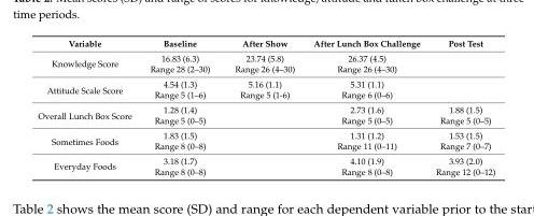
<table><thead><tr><td>Variable</td><td>Baseline</td><td>After Show</td><td>After Lunch Box Challenge</td><td>Post Test</td></tr></thead><tbody><tr><td rowspan="2">Knowledge Score</td><td>16.83 (6.3)</td><td>23.74 (5.8)</td><td>26.37 (4.5)</td><td rowspan="2"></td></tr><tr><td>Range 28 (2–30)</td><td>Range 26 (4–30)</td><td>Range 26 (4–30)</td></tr><tr><td rowspan="2">Attitude Scale Score</td><td>4.54 (1.3)</td><td>5.16 (1.1)</td><td>5.31 (1.1)</td><td rowspan="2"></td></tr><tr><td>Range 5 (1–6)</td><td>Range 5 (1-6)</td><td>Range 6 (0–6)</td></tr><tr><td rowspan="2">Overall Lunch Box Score</td><td>1.28 (1.4)</td><td rowspan="2"></td><td>2.73 (1.6)</td><td>1.88 (1.5)</td></tr><tr><td>Range 5 (0–5)</td><td>Range 5 (0–5)</td><td>Range 5 (0–5)</td></tr><tr><td rowspan="2">Sometimes Foods</td><td>1.83 (1.5)</td><td rowspan="2"></td><td>1.31 (1.2)</td><td>1.53 (1.5)</td></tr><tr><td>Range 8 (0–8)</td><td>Range 11 (0–11)</td><td>Range 7 (0–7)</td></tr><tr><td rowspan="2">Everyday Foods</td><td>3.18 (1.7)</td><td rowspan="2"></td><td>4.10 (1.9)</td><td>3.93 (2.0)</td></tr><tr><td>Range 8 (0–8)</td><td>Range 8 (0–8)</td><td>Range 12 (0–12)</td></tr></tbody></table>